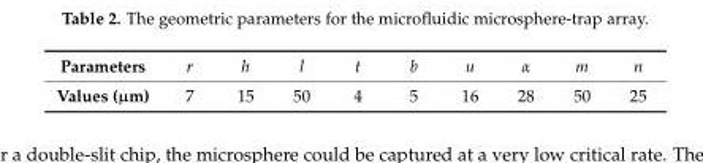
<table><tbody><tr><td>Parameters</td><td>r</td><td>h</td><td>l</td><td>t</td><td>b</td><td>u</td><td>α</td><td>m</td><td>n</td></tr><tr><td>Values (µm)</td><td>7</td><td>15</td><td>50</td><td>4</td><td>5</td><td>16</td><td>28</td><td>50</td><td>25</td></tr></tbody></table>